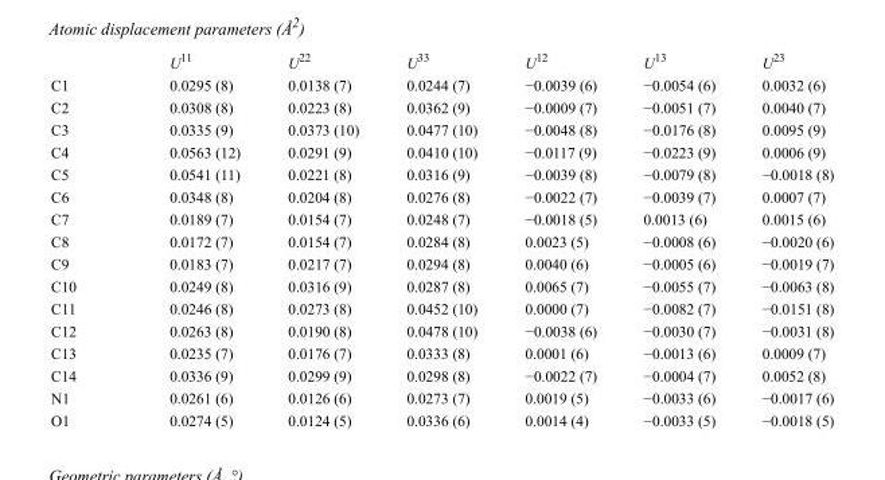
<table><thead><tr><td></td><td>U<sup>11</sup></td><td>U<sup>22</sup></td><td>U<sup>33</sup></td><td>U<sup>12</sup></td><td>U<sup>13</sup></td><td>U<sup>23</sup></td></tr></thead><tbody><tr><td>C1</td><td>0.0295 (8)</td><td>0.0138 (7)</td><td>0.0244 (7)</td><td>−0.0039 (6)</td><td>−0.0054 (6)</td><td>0.0032 (6)</td></tr><tr><td>C2</td><td>0.0308 (8)</td><td>0.0223 (8)</td><td>0.0362 (9)</td><td>−0.0009 (7)</td><td>−0.0051 (7)</td><td>0.0040 (7)</td></tr><tr><td>C3</td><td>0.0335 (9)</td><td>0.0373 (10)</td><td>0.0477 (10)</td><td>−0.0048 (8)</td><td>−0.0176 (8)</td><td>0.0095 (9)</td></tr><tr><td>C4</td><td>0.0563 (12)</td><td>0.0291 (9)</td><td>0.0410 (10)</td><td>−0.0117 (9)</td><td>−0.0223 (9)</td><td>0.0006 (9)</td></tr><tr><td>C5</td><td>0.0541 (11)</td><td>0.0221 (8)</td><td>0.0316 (9)</td><td>−0.0039 (8)</td><td>−0.0079 (8)</td><td>−0.0018 (8)</td></tr><tr><td>C6</td><td>0.0348 (8)</td><td>0.0204 (8)</td><td>0.0276 (8)</td><td>−0.0022 (7)</td><td>−0.0039 (7)</td><td>0.0007 (7)</td></tr><tr><td>C7</td><td>0.0189 (7)</td><td>0.0154 (7)</td><td>0.0248 (7)</td><td>−0.0018 (5)</td><td>0.0013 (6)</td><td>0.0015 (6)</td></tr><tr><td>C8</td><td>0.0172 (7)</td><td>0.0154 (7)</td><td>0.0284 (8)</td><td>0.0023 (5)</td><td>−0.0008 (6)</td><td>−0.0020 (6)</td></tr><tr><td>C9</td><td>0.0183 (7)</td><td>0.0217 (7)</td><td>0.0294 (8)</td><td>0.0040 (6)</td><td>−0.0005 (6)</td><td>−0.0019 (7)</td></tr><tr><td>C10</td><td>0.0249 (8)</td><td>0.0316 (9)</td><td>0.0287 (8)</td><td>0.0065 (7)</td><td>−0.0055 (7)</td><td>−0.0063 (8)</td></tr><tr><td>C11</td><td>0.0246 (8)</td><td>0.0273 (8)</td><td>0.0452 (10)</td><td>0.0000 (7)</td><td>−0.0082 (7)</td><td>−0.0151 (8)</td></tr><tr><td>C12</td><td>0.0263 (8)</td><td>0.0190 (8)</td><td>0.0478 (10)</td><td>−0.0038 (6)</td><td>−0.0030 (7)</td><td>−0.0031 (8)</td></tr><tr><td>C13</td><td>0.0235 (7)</td><td>0.0176 (7)</td><td>0.0333 (8)</td><td>0.0001 (6)</td><td>−0.0013 (6)</td><td>0.0009 (7)</td></tr><tr><td>C14</td><td>0.0336 (9)</td><td>0.0299 (9)</td><td>0.0298 (8)</td><td>−0.0022 (7)</td><td>−0.0004 (7)</td><td>0.0052 (8)</td></tr><tr><td>N1</td><td>0.0261 (6)</td><td>0.0126 (6)</td><td>0.0273 (7)</td><td>0.0019 (5)</td><td>−0.0033 (6)</td><td>−0.0017 (6)</td></tr><tr><td>O1</td><td>0.0274 (5)</td><td>0.0124 (5)</td><td>0.0336 (6)</td><td>0.0014 (4)</td><td>−0.0033 (5)</td><td>−0.0018 (5)</td></tr></tbody></table>